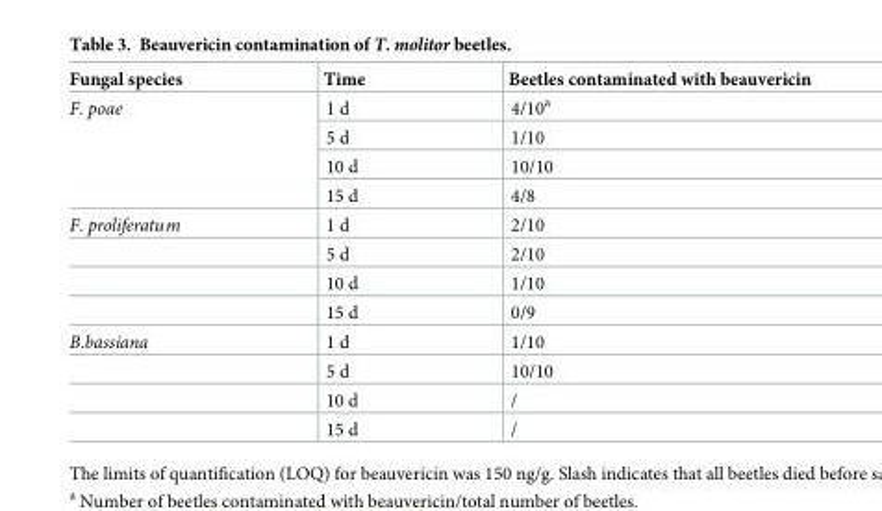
<table><thead><tr><td>Fungal species</td><td>Time</td><td>Beetles contaminated with beauvericin</td></tr></thead><tbody><tr><td rowspan="4">F. poae</td><td>1 d</td><td>4/10<sup>a</sup></td></tr><tr><td>5 d</td><td>1/10</td></tr><tr><td>10 d</td><td>10/10</td></tr><tr><td>15 d</td><td>4/8</td></tr><tr><td rowspan="4">F. proliferatum</td><td>1 d</td><td>2/10</td></tr><tr><td>5 d</td><td>2/10</td></tr><tr><td>10 d</td><td>1/10</td></tr><tr><td>15 d</td><td>0/9</td></tr><tr><td rowspan="4">B.bassiana</td><td>1 d</td><td>1/10</td></tr><tr><td>5 d</td><td>10/10</td></tr><tr><td>10 d</td><td>/</td></tr><tr><td>15 d</td><td>/</td></tr></tbody></table>